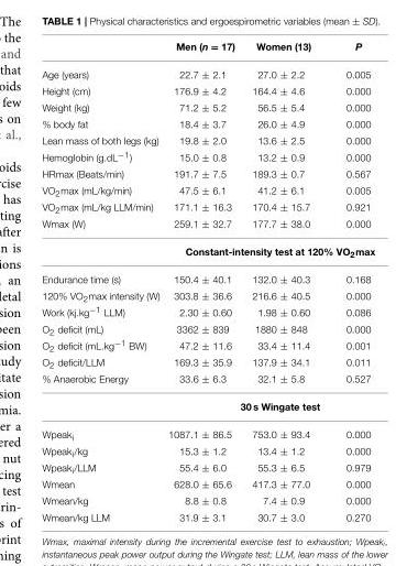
<table><thead><tr><td></td><td>Men (n = 17)</td><td>Women (13)</td><td>P</td></tr></thead><tbody><tr><td>Age (years)</td><td>22.7 ± 2.1</td><td>27.0 ± 2.2</td><td>0.005</td></tr><tr><td>Height (cm)</td><td>176.9 ± 4.2</td><td>164.4 ± 4.6</td><td>0.000</td></tr><tr><td>Weight (kg)</td><td>71.2 ± 5.2</td><td>56.5 ± 5.4</td><td>0.000</td></tr><tr><td>% body fat</td><td>18.4 ± 3.7</td><td>26.0 ± 4.9</td><td>0.000</td></tr><tr><td>Lean mass of both legs (kg)</td><td>19.8 ± 2.0</td><td>13.6 ± 2.5</td><td>0.000</td></tr><tr><td>Hemoglobin (g.dL<sup>−1</sup>)</td><td>15.0 ± 0.8</td><td>13.2 ± 0.9</td><td>0.000</td></tr><tr><td>HRmax (Beats/min)</td><td>191.7 ± 7.5</td><td>189.3 ± 0.7</td><td>0.567</td></tr><tr><td>VO<sub>2</sub>max (mL/kg/min)</td><td>47.5 ± 6.1</td><td>41.2 ± 6.1</td><td>0.005</td></tr><tr><td>VO<sub>2</sub>max (mL/kg LLM/min)</td><td>171.1 ± 16.3</td><td>170.4 ± 15.7</td><td>0.921</td></tr><tr><td rowspan="2">Wmax (W)</td><td>259.1 ± 32.7</td><td>177.7 ± 38.0</td><td>0.000</td></tr><tr><td colspan="3">Constant-intensity test at 120% VO<sub>2</sub>max</td></tr><tr><td>Endurance time (s)</td><td>150.4 ± 40.1</td><td>132.0 ± 40.3</td><td>0.168</td></tr><tr><td>120% VO<sub>2</sub>max intensity (W)</td><td>303.8 ± 36.6</td><td>216.6 ± 40.5</td><td>0.000</td></tr><tr><td>Work (kj.kg<sup>−1</sup> LLM)</td><td>2.30 ± 0.60</td><td>1.98 ± 0.60</td><td>0.086</td></tr><tr><td>O<sub>2</sub> deficit (mL)</td><td>3362 ± 839</td><td>1880 ± 848</td><td>0.000</td></tr><tr><td>O<sub>2</sub> deficit (mL.kg<sup>−1</sup> BW)</td><td>47.2 ± 11.6</td><td>33.4 ± 11.4</td><td>0.001</td></tr><tr><td>O<sub>2</sub> deficit/LLM</td><td>169.3 ± 35.9</td><td>137.9 ± 34.1</td><td>0.011</td></tr><tr><td rowspan="2">% Anaerobic Energy</td><td>33.6 ± 6.3</td><td>32.1 ± 5.8</td><td>0.527</td></tr><tr><td colspan="3">30 s Wingate test</td></tr><tr><td>Wpeak<sub>i</sub></td><td>1087.1 ± 86.5</td><td>753.0 ± 93.4</td><td>0.000</td></tr><tr><td>Wpeak<sub>i</sub>/kg</td><td>15.3 ± 1.2</td><td>13.4 ± 1.2</td><td>0.000</td></tr><tr><td>Wpeak<sub>i</sub>/LLM</td><td>55.4 ± 6.0</td><td>55.3 ± 6.5</td><td>0.979</td></tr><tr><td>Wmean</td><td>628.0 ± 65.6</td><td>417.3 ± 77.0</td><td>0.000</td></tr><tr><td>Wmean/kg</td><td>8.8 ± 0.8</td><td>7.4 ± 0.9</td><td>0.000</td></tr><tr><td>Wmean/kg LLM</td><td>31.9 ± 3.1</td><td>30.7 ± 3.0</td><td>0.270</td></tr></tbody></table>